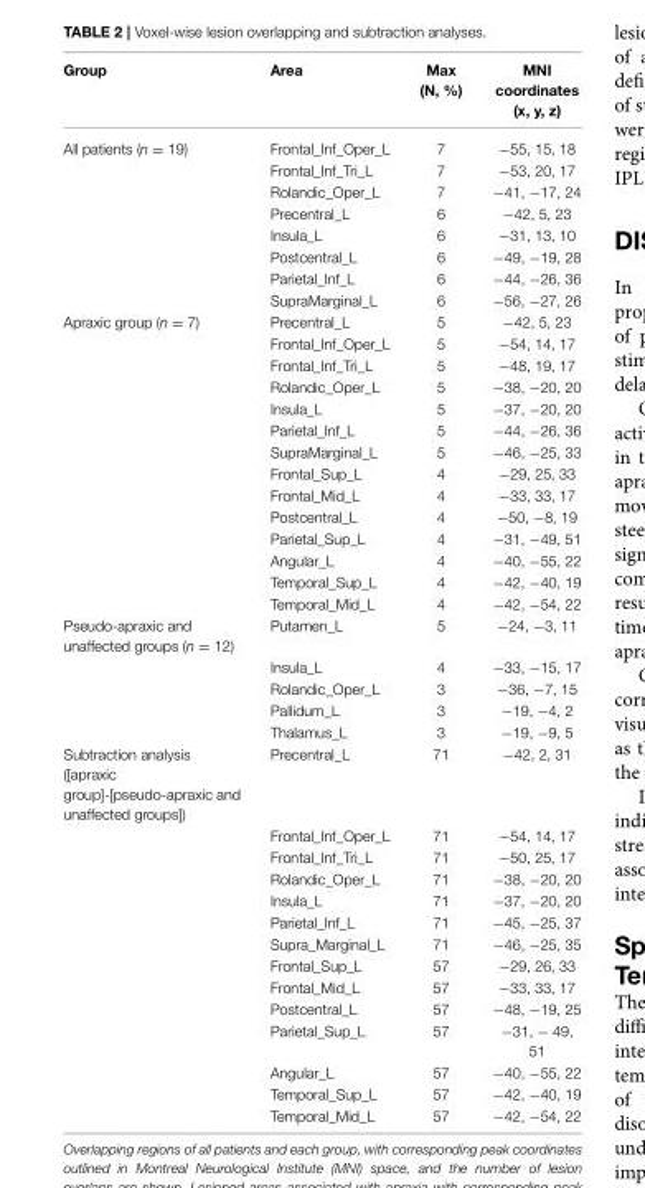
<table><thead><tr><td>Group</td><td>Area</td><td>Max (N, %)</td><td>MNI coordinates (x, y, z)</td></tr></thead><tbody><tr><td rowspan="8">All patients (n = 19)</td><td>Frontal_Inf_Oper_L</td><td>7</td><td>−55, 15, 18</td></tr><tr><td>Frontal_Inf_Tri_L</td><td>7</td><td>−53, 20, 17</td></tr><tr><td>Rolandic_Oper_L</td><td>7</td><td>−41, −17, 24</td></tr><tr><td>Precentral_L</td><td>6</td><td>−42, 5, 23</td></tr><tr><td>Insula_L</td><td>6</td><td>−31, 13, 10</td></tr><tr><td>Postcentral_L</td><td>6</td><td>−49, −19, 28</td></tr><tr><td>Parietal_Inf_L</td><td>6</td><td>−44, −26, 36</td></tr><tr><td>SupraMarginal_L</td><td>6</td><td>−56, −27, 26</td></tr><tr><td rowspan="14">Apraxic group (n = 7)</td><td>Precentral_L</td><td>5</td><td>−42, 5, 23</td></tr><tr><td>Frontal_Inf_Oper_L</td><td>5</td><td>−54, 14, 17</td></tr><tr><td>Frontal_Inf_Tri_L</td><td>5</td><td>−48, 19, 17</td></tr><tr><td>Rolandic_Oper_L</td><td>5</td><td>−38, −20, 20</td></tr><tr><td>Insula_L</td><td>5</td><td>−37, −20, 20</td></tr><tr><td>Parietal_Inf_L</td><td>5</td><td>−44, −26, 36</td></tr><tr><td>SupraMarginal_L</td><td>5</td><td>−46, −25, 33</td></tr><tr><td>Frontal_Sup_L</td><td>4</td><td>−29, 25, 33</td></tr><tr><td>Frontal_Mid_L</td><td>4</td><td>−33, 33, 17</td></tr><tr><td>Postcentral_L</td><td>4</td><td>−50, −8, 19</td></tr><tr><td>Parietal_Sup_L</td><td>4</td><td>−31, −49, 51</td></tr><tr><td>Angular_L</td><td>4</td><td>−40, −55, 22</td></tr><tr><td>Temporal_Sup_L</td><td>4</td><td>−42, −40, 19</td></tr><tr><td>Temporal_Mid_L</td><td>4</td><td>−42, −54, 22</td></tr><tr><td rowspan="5">Pseudo-apraxic and unaffected groups (n = 12)</td><td>Putamen_L</td><td>5</td><td>−24, −3, 11</td></tr><tr><td>Insula_L</td><td>4</td><td>−33, −15, 17</td></tr><tr><td>Rolandic_Oper_L</td><td>3</td><td>−36, −7, 15</td></tr><tr><td>Pallidum_L</td><td>3</td><td>−19, −4, 2</td></tr><tr><td>Thalamus_L</td><td>3</td><td>−19, −9, 5</td></tr><tr><td rowspan="14">Subtraction analysis ([apraxic group]-[pseudo-apraxic and unaffected groups])</td><td>Precentral_L</td><td>71</td><td>−42, 2, 31</td></tr><tr><td>Frontal_Inf_Oper_L</td><td>71</td><td>−54, 14, 17</td></tr><tr><td>Frontal_Inf_Tri_L</td><td>71</td><td>−50, 25, 17</td></tr><tr><td>Rolandic_Oper_L</td><td>71</td><td>−38, −20, 20</td></tr><tr><td>Insula_L</td><td>71</td><td>−37, −20, 20</td></tr><tr><td>Parietal_Inf_L</td><td>71</td><td>−45, −25, 37</td></tr><tr><td>Supra_Marginal_L</td><td>71</td><td>−46, −25, 35</td></tr><tr><td>Frontal_Sup_L</td><td>57</td><td>−29, 26, 33</td></tr><tr><td>Frontal_Mid_L</td><td>57</td><td>−33, 33, 17</td></tr><tr><td>Postcentral_L</td><td>57</td><td>−48, −19, 25</td></tr><tr><td>Parietal_Sup_L</td><td>57</td><td>−31, − 49, 51</td></tr><tr><td>Angular_L</td><td>57</td><td>−40, −55, 22</td></tr><tr><td>Temporal_Sup_L</td><td>57</td><td>−42, −40, 19</td></tr><tr><td>Temporal_Mid_L</td><td>57</td><td>−42, −54, 22</td></tr></tbody></table>